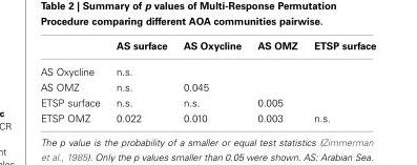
<table><thead><tr><td></td><td>AS surface</td><td>AS Oxycline</td><td>AS OMZ</td><td>ETSP surface</td></tr></thead><tbody><tr><td>AS Oxycline</td><td>n.s.</td><td></td><td></td><td></td></tr><tr><td>AS OMZ</td><td>n.s.</td><td>0.045</td><td></td><td></td></tr><tr><td>ETSP surface</td><td>n.s.</td><td>n.s.</td><td>0.005</td><td></td></tr><tr><td>ETSP OMZ</td><td>0.022</td><td>0.010</td><td>0.003</td><td>n.s.</td></tr></tbody></table>